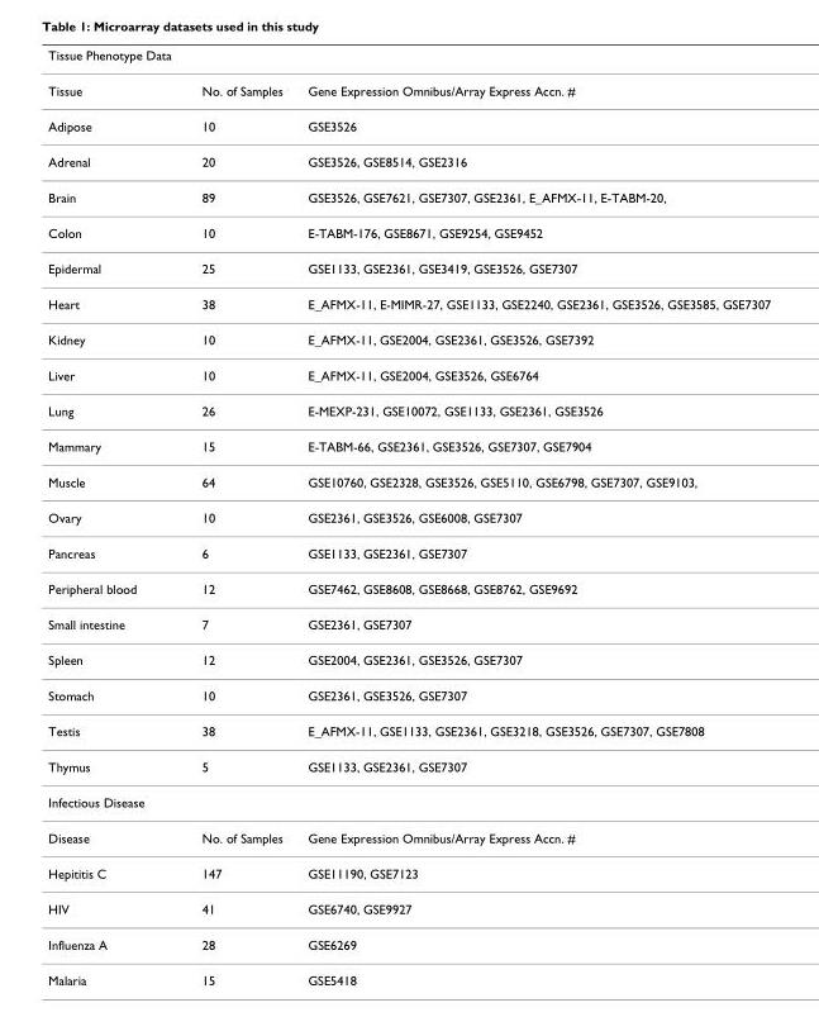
<table><thead><tr><td>Tissue Phenotype Data</td><td></td><td></td></tr></thead><tbody><tr><td>Tissue</td><td>No. of Samples</td><td>Gene Expression Omnibus/Array Express Accn. #</td></tr><tr><td>Adipose</td><td>10</td><td>GSE3526</td></tr><tr><td>Adrenal</td><td>20</td><td>GSE3526, GSE8514, GSE2316</td></tr><tr><td>Brain</td><td>89</td><td>GSE3526, GSE7621, GSE7307, GSE2361, E_AFMX-11, E-TABM-20,</td></tr><tr><td>Colon</td><td>10</td><td>E-TABM-176, GSE8671, GSE9254, GSE9452</td></tr><tr><td>Epidermal</td><td>25</td><td>GSE1133, GSE2361, GSE3419, GSE3526, GSE7307</td></tr><tr><td>Heart</td><td>38</td><td>E_AFMX-11, E-MIMR-27, GSE1133, GSE2240, GSE2361, GSE3526, GSE3585, GSE7307</td></tr><tr><td>Kidney</td><td>10</td><td>E_AFMX-11, GSE2004, GSE2361, GSE3526, GSE7392</td></tr><tr><td>Liver</td><td>10</td><td>E_AFMX-11, GSE2004, GSE3526, GSE6764</td></tr><tr><td>Lung</td><td>26</td><td>E-MEXP-231, GSE10072, GSE1133, GSE2361, GSE3526</td></tr><tr><td>Mammary</td><td>15</td><td>E-TABM-66, GSE2361, GSE3526, GSE7307, GSE7904</td></tr><tr><td>Muscle</td><td>64</td><td>GSE10760, GSE2328, GSE3526, GSE5110, GSE6798, GSE7307, GSE9103,</td></tr><tr><td>Ovary</td><td>10</td><td>GSE2361, GSE3526, GSE6008, GSE7307</td></tr><tr><td>Pancreas</td><td>6</td><td>GSE1133, GSE2361, GSE7307</td></tr><tr><td>Peripheral blood</td><td>12</td><td>GSE7462, GSE8608, GSE8668, GSE8762, GSE9692</td></tr><tr><td>Small intestine</td><td>7</td><td>GSE2361, GSE7307</td></tr><tr><td>Spleen</td><td>12</td><td>GSE2004, GSE2361, GSE3526, GSE7307</td></tr><tr><td>Stomach</td><td>10</td><td>GSE2361, GSE3526, GSE7307</td></tr><tr><td>Testis</td><td>38</td><td>E_AFMX-11, GSE1133, GSE2361, GSE3218, GSE3526, GSE7307, GSE7808</td></tr><tr><td>Thymus</td><td>5</td><td>GSE1133, GSE2361, GSE7307</td></tr><tr><td colspan="3">Infectious Disease</td></tr><tr><td>Disease</td><td>No. of Samples</td><td>Gene Expression Omnibus/Array Express Accn. #</td></tr><tr><td>Hepititis C</td><td>147</td><td>GSE11190, GSE7123</td></tr><tr><td>HIV</td><td>41</td><td>GSE6740, GSE9927</td></tr><tr><td>Influenza A</td><td>28</td><td>GSE6269</td></tr><tr><td>Malaria</td><td>15</td><td>GSE5418</td></tr></tbody></table>